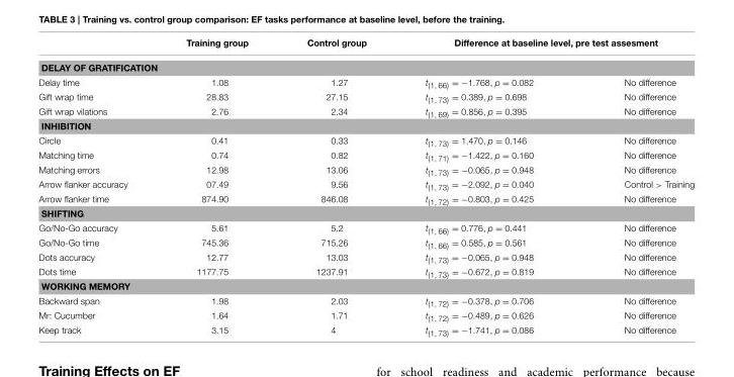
<table><thead><tr><td></td><td>Training group</td><td>Control group</td><td colspan="2">Difference at baseline level, pre test assesment</td></tr><tr><td colspan="5">DELAY OF GRATIFICATION</td></tr><tr><td>Delay time</td><td>1.08</td><td>1.27</td><td>t<sub>(1, 66)</sub> = −1.768, p = 0.082</td><td>No difference</td></tr></thead><tbody><tr><td>Gift wrap time</td><td>28.83</td><td>27.15</td><td>t<sub>(1, 73)</sub> = 0.389, p = 0.698</td><td>No difference</td></tr><tr><td>Gift wrap vilations</td><td>2.76</td><td>2.34</td><td>t<sub>(1, 69)</sub> = 0.856, p = 0.395</td><td>No difference</td></tr><tr><td colspan="5">INHIBITION</td></tr><tr><td>Circle</td><td>0.41</td><td>0.33</td><td>t<sub>(1, 73)</sub> = 1.470, p = 0.146</td><td>No difference</td></tr><tr><td>Matching time</td><td>0.74</td><td>0.82</td><td>t<sub>(1, 71)</sub> = −1.422, p = 0.160</td><td>No difference</td></tr><tr><td>Matching errors</td><td>12.98</td><td>13.06</td><td>t<sub>(1, 73)</sub> = −0.065, p = 0.948</td><td>No difference</td></tr><tr><td>Arrow flanker accuracy</td><td>07.49</td><td>9.56</td><td>t<sub>(1, 73)</sub> = −2.092, p = 0.040</td><td>Control &gt; Training</td></tr><tr><td>Arrow flanker time</td><td>874.90</td><td>846.08</td><td>t<sub>(1, 72)</sub> = −0.803, p = 0.425</td><td>No difference</td></tr><tr><td colspan="5">SHIFTING</td></tr><tr><td>Go/No-Go accuracy</td><td>5.61</td><td>5.2</td><td>t<sub>(1, 66)</sub> = 0.776, p = 0.441</td><td>No difference</td></tr><tr><td>Go/No-Go time</td><td>745.36</td><td>715.26</td><td>t<sub>(1, 66)</sub> = 0.585, p = 0.561</td><td>No difference</td></tr><tr><td>Dots accuracy</td><td>12.77</td><td>13.03</td><td>t<sub>(1, 73)</sub> = −0.065, p = 0.948</td><td>No difference</td></tr><tr><td>Dots time</td><td>1177.75</td><td>1237.91</td><td>t<sub>(1, 73)</sub> = −0.672, p = 0.819</td><td>No difference</td></tr><tr><td colspan="5">WORKING MEMORY</td></tr><tr><td>Backward span</td><td>1.98</td><td>2.03</td><td>t<sub>(1, 72)</sub> = −0.378, p = 0.706</td><td>No difference</td></tr><tr><td>Mr: Cucumber</td><td>1.64</td><td>1.71</td><td>t<sub>(1, 72)</sub> = −0.489, p = 0.626</td><td>No difference</td></tr><tr><td>Keep track</td><td>3.15</td><td>4</td><td>t<sub>(1, 73)</sub> = −1.741, p = 0.086</td><td>No difference</td></tr></tbody></table>